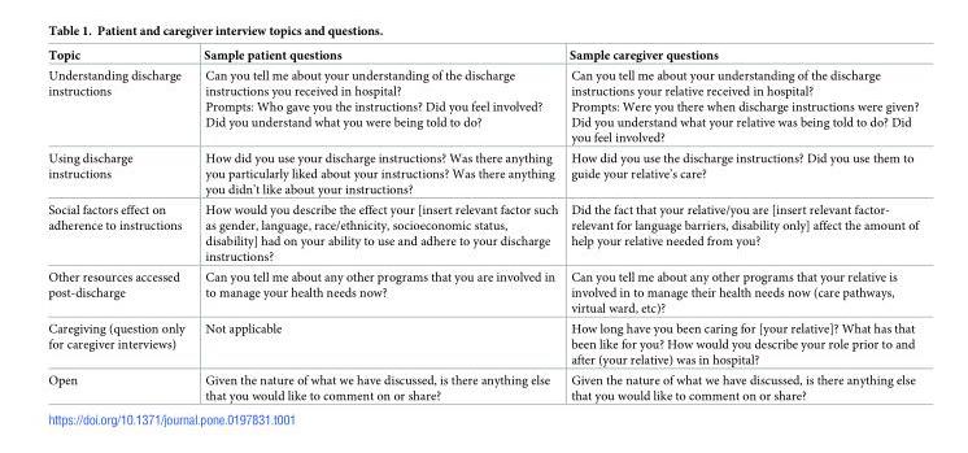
<table><thead><tr><td>Topic</td><td>Sample patient questions</td><td>Sample caregiver questions</td></tr></thead><tbody><tr><td>Understanding discharge instructions</td><td>Can you tell me about your understanding of the discharge instructions you received in hospital? Prompts: Who gave you the instructions? Did you feel involved? Did you understand what you were being told to do?</td><td>Can you tell me about your understanding of the discharge instructions your relative received in hospital? Prompts: Were you there when discharge instructions were given? Did you understand what your relative was being told to do? Did you feel involved?</td></tr><tr><td>Using discharge instructions</td><td>How did you use your discharge instructions? Was there anything you particularly liked about your instructions? Was there anything you didn’t like about your instructions?</td><td>How did you use the discharge instructions? Did you use them to guide your relative’s care?</td></tr><tr><td>Social factors effect on adherence to instructions</td><td>How would you describe the effect your [insert relevant factor such as gender, language, race/ethnicity, socioeconomic status, disability] had on your ability to use and adhere to your discharge instructions?</td><td>Did the fact that your relative/you are [insert relevant factor- relevant for language barriers, disability only] affect the amount of help your relative needed from you?</td></tr><tr><td>Other resources accessed post-discharge</td><td>Can you tell me about any other programs that you are involved in to manage your health needs now?</td><td>Can you tell me about any other programs that your relative is involved in to manage their health needs now (care pathways, virtual ward, etc)?</td></tr><tr><td>Caregiving (question only for caregiver interviews)</td><td>Not applicable</td><td>How long have you been caring for [your relative]? What has that been like for you? How would you describe your role prior to and after (your relative) was in hospital?</td></tr><tr><td>Open</td><td>Given the nature of what we have discussed, is there anything else that you would like to comment on or share?</td><td>Given the nature of what we have discussed, is there anything else that you would like to comment on or share?</td></tr></tbody></table>